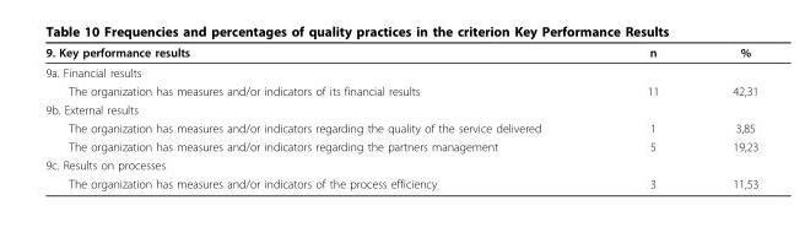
<table><thead><tr><td>9. Key performance results</td><td>n</td><td>%</td></tr></thead><tbody><tr><td colspan="3">9a. Financial results</td></tr><tr><td>The organization has measures and/or indicators of its financial results</td><td>11</td><td>42,31</td></tr><tr><td colspan="3">9b. External results</td></tr><tr><td>The organization has measures and/or indicators regarding the quality of the service delivered</td><td>1</td><td>3,85</td></tr><tr><td>The organization has measures and/or indicators regarding the partners management</td><td>5</td><td>19,23</td></tr><tr><td colspan="3">9c. Results on processes</td></tr><tr><td>The organization has measures and/or indicators of the process efficiency</td><td>3</td><td>11,53</td></tr></tbody></table>